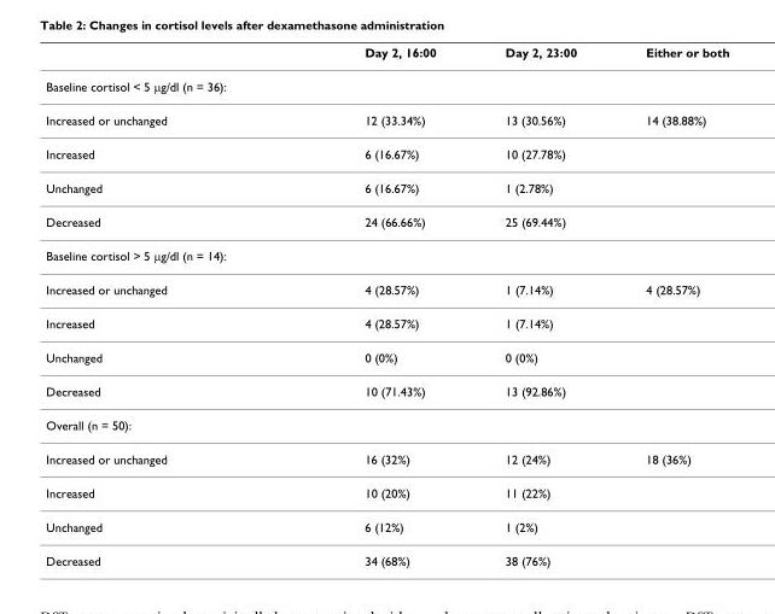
<table><thead><tr><td></td><td>Day 2, 16:00</td><td>Day 2, 23:00</td><td>Either or both</td></tr></thead><tbody><tr><td colspan="4">Baseline cortisol &lt; 5 μg/dl (n = 36):</td></tr><tr><td>Increased or unchanged</td><td>12 (33.34%)</td><td>13 (30.56%)</td><td>14 (38.88%)</td></tr><tr><td>Increased</td><td>6 (16.67%)</td><td>10 (27.78%)</td><td></td></tr><tr><td>Unchanged</td><td>6 (16.67%)</td><td>1 (2.78%)</td><td></td></tr><tr><td>Decreased</td><td>24 (66.66%)</td><td>25 (69.44%)</td><td></td></tr><tr><td colspan="4">Baseline cortisol &gt; 5 μg/dl (n = 14):</td></tr><tr><td>Increased or unchanged</td><td>4 (28.57%)</td><td>1 (7.14%)</td><td>4 (28.57%)</td></tr><tr><td>Increased</td><td>4 (28.57%)</td><td>1 (7.14%)</td><td></td></tr><tr><td>Unchanged</td><td>0 (0%)</td><td>0 (0%)</td><td></td></tr><tr><td>Decreased</td><td>10 (71.43%)</td><td>13 (92.86%)</td><td></td></tr><tr><td colspan="4">Overall (n = 50):</td></tr><tr><td>Increased or unchanged</td><td>16 (32%)</td><td>12 (24%)</td><td>18 (36%)</td></tr><tr><td>Increased</td><td>10 (20%)</td><td>11 (22%)</td><td></td></tr><tr><td>Unchanged</td><td>6 (12%)</td><td>1 (2%)</td><td></td></tr><tr><td>Decreased</td><td>34 (68%)</td><td>38 (76%)</td><td></td></tr></tbody></table>